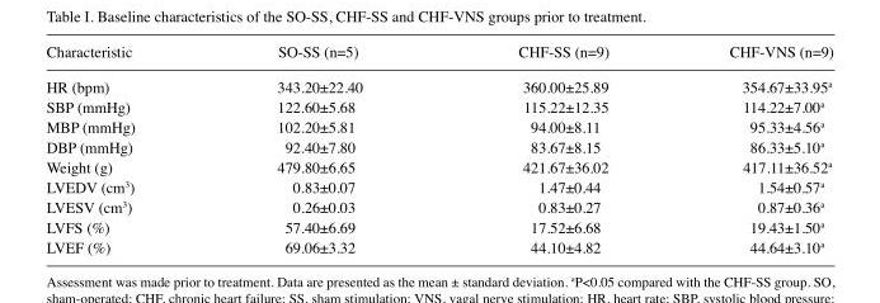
<table><thead><tr><td>Characteristic</td><td>SO-SS (n=5)</td><td>CHF-SS (n=9)</td><td>CHF-VNS (n=9)</td></tr></thead><tbody><tr><td>HR (bpm)</td><td>343.20±22.40</td><td>360.00±25.89</td><td>354.67±33.95<sup>a</sup></td></tr><tr><td>SBP (mmHg)</td><td>122.60±5.68</td><td>115.22±12.35</td><td>114.22±7.00<sup>a</sup></td></tr><tr><td>MBP (mmHg)</td><td>102.20±5.81</td><td>94.00±8.11</td><td>95.33±4.56<sup>a</sup></td></tr><tr><td>DBP (mmHg)</td><td>92.40±7.80</td><td>83.67±8.15</td><td>86.33±5.10<sup>a</sup></td></tr><tr><td>Weight (g)</td><td>479.80±6.65</td><td>421.67±36.02</td><td>417.11±36.52<sup>a</sup></td></tr><tr><td>LVEDV (cm<sup>3</sup>)</td><td>0.83±0.07</td><td>1.47±0.44</td><td>1.54±0.57<sup>a</sup></td></tr><tr><td>LVESV (cm<sup>3</sup>)</td><td>0.26±0.03</td><td>0.83±0.27</td><td>0.87±0.36<sup>a</sup></td></tr><tr><td>LVFS (%)</td><td>57.40±6.69</td><td>17.52±6.68</td><td>19.43±1.50<sup>a</sup></td></tr><tr><td>LVEF (%)</td><td>69.06±3.32</td><td>44.10±4.82</td><td>44.64±3.10<sup>a</sup></td></tr></tbody></table>